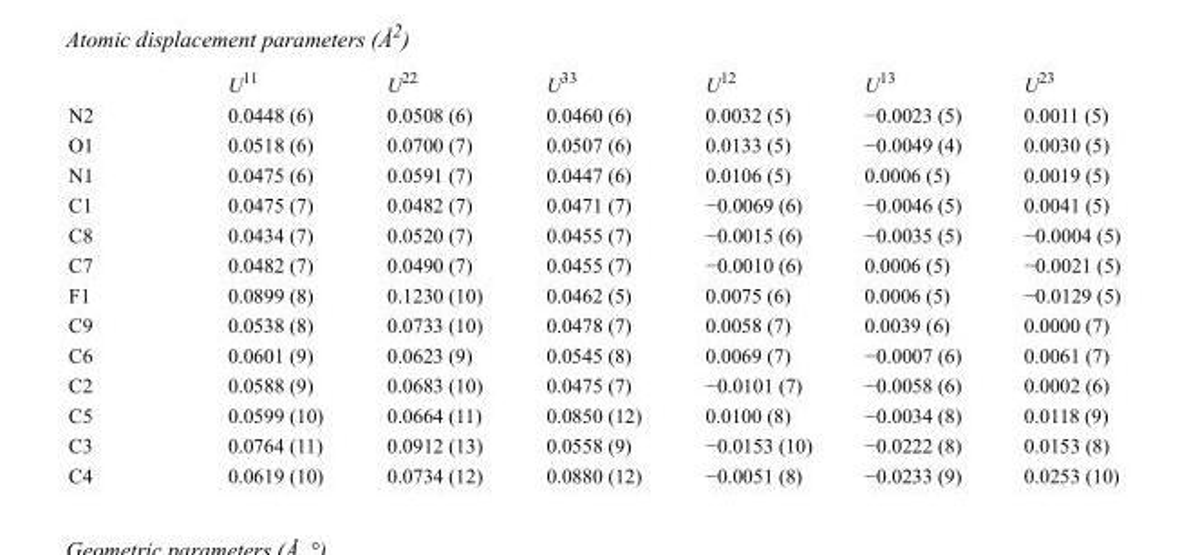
<table><thead><tr><td></td><td>U<sup>11</sup></td><td>U<sup>22</sup></td><td>U<sup>33</sup></td><td>U<sup>12</sup></td><td>U<sup>13</sup></td><td>U<sup>23</sup></td></tr></thead><tbody><tr><td>N2</td><td>0.0448 (6)</td><td>0.0508 (6)</td><td>0.0460 (6)</td><td>0.0032 (5)</td><td>−0.0023 (5)</td><td>0.0011 (5)</td></tr><tr><td>O1</td><td>0.0518 (6)</td><td>0.0700 (7)</td><td>0.0507 (6)</td><td>0.0133 (5)</td><td>−0.0049 (4)</td><td>0.0030 (5)</td></tr><tr><td>N1</td><td>0.0475 (6)</td><td>0.0591 (7)</td><td>0.0447 (6)</td><td>0.0106 (5)</td><td>0.0006 (5)</td><td>0.0019 (5)</td></tr><tr><td>C1</td><td>0.0475 (7)</td><td>0.0482 (7)</td><td>0.0471 (7)</td><td>−0.0069 (6)</td><td>−0.0046 (5)</td><td>0.0041 (5)</td></tr><tr><td>C8</td><td>0.0434 (7)</td><td>0.0520 (7)</td><td>0.0455 (7)</td><td>−0.0015 (6)</td><td>−0.0035 (5)</td><td>−0.0004 (5)</td></tr><tr><td>C7</td><td>0.0482 (7)</td><td>0.0490 (7)</td><td>0.0455 (7)</td><td>−0.0010 (6)</td><td>0.0006 (5)</td><td>−0.0021 (5)</td></tr><tr><td>F1</td><td>0.0899 (8)</td><td>0.1230 (10)</td><td>0.0462 (5)</td><td>0.0075 (6)</td><td>0.0006 (5)</td><td>−0.0129 (5)</td></tr><tr><td>C9</td><td>0.0538 (8)</td><td>0.0733 (10)</td><td>0.0478 (7)</td><td>0.0058 (7)</td><td>0.0039 (6)</td><td>0.0000 (7)</td></tr><tr><td>C6</td><td>0.0601 (9)</td><td>0.0623 (9)</td><td>0.0545 (8)</td><td>0.0069 (7)</td><td>−0.0007 (6)</td><td>0.0061 (7)</td></tr><tr><td>C2</td><td>0.0588 (9)</td><td>0.0683 (10)</td><td>0.0475 (7)</td><td>−0.0101 (7)</td><td>−0.0058 (6)</td><td>0.0002 (6)</td></tr><tr><td>C5</td><td>0.0599 (10)</td><td>0.0664 (11)</td><td>0.0850 (12)</td><td>0.0100 (8)</td><td>−0.0034 (8)</td><td>0.0118 (9)</td></tr><tr><td>C3</td><td>0.0764 (11)</td><td>0.0912 (13)</td><td>0.0558 (9)</td><td>−0.0153 (10)</td><td>−0.0222 (8)</td><td>0.0153 (8)</td></tr><tr><td>C4</td><td>0.0619 (10)</td><td>0.0734 (12)</td><td>0.0880 (12)</td><td>−0.0051 (8)</td><td>−0.0233 (9)</td><td>0.0253 (10)</td></tr></tbody></table>